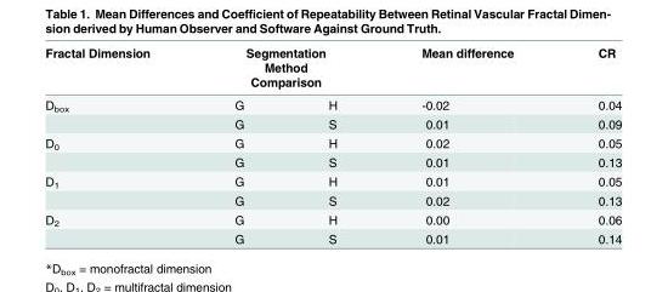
<table><thead><tr><td rowspan="2">Fractal Dimension D<sub>box</sub></td><td colspan="2">Segmentation Method Comparison</td><td rowspan="2">Mean difference -0.02</td><td rowspan="2">CR 0.04</td></tr><tr><td>G</td><td>H</td></tr></thead><tbody><tr><td></td><td>G</td><td>S</td><td>0.01</td><td>0.09</td></tr><tr><td rowspan="2">D<sub>0</sub></td><td>G</td><td>H</td><td>0.02</td><td>0.05</td></tr><tr><td>G</td><td>S</td><td>0.01</td><td>0.13</td></tr><tr><td rowspan="2">D<sub>1</sub></td><td>G</td><td>H</td><td>0.01</td><td>0.05</td></tr><tr><td>G</td><td>S</td><td>0.02</td><td>0.13</td></tr><tr><td rowspan="2">D<sub>2</sub></td><td>G</td><td>H</td><td>0.00</td><td>0.06</td></tr><tr><td>G</td><td>S</td><td>0.01</td><td>0.14</td></tr></tbody></table>